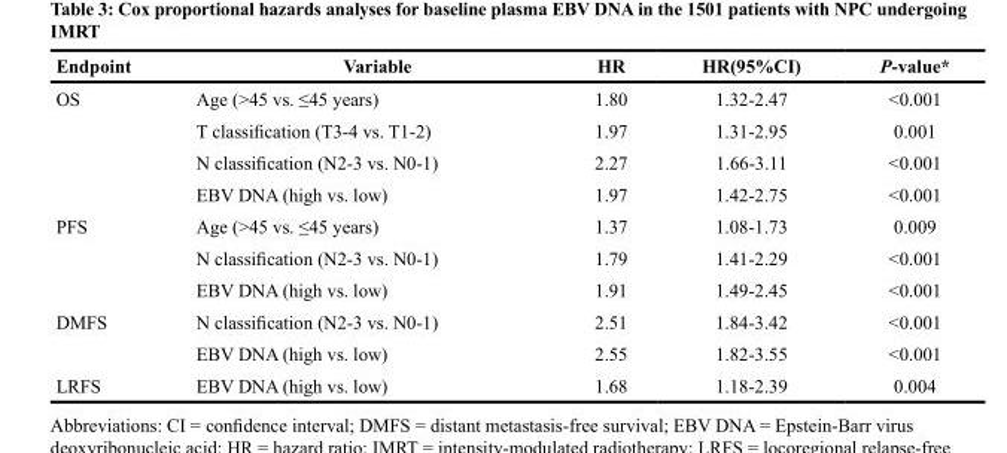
<table><thead><tr><td>Endpoint</td><td>Variable</td><td>HR</td><td>HR(95%CI)</td><td>P-value*</td></tr></thead><tbody><tr><td rowspan="4">OS</td><td>Age (&gt;45 vs. ≤45 years)</td><td>1.80</td><td>1.32-2.47</td><td>&lt;0.001</td></tr><tr><td>T classification (T3-4 vs. T1-2)</td><td>1.97</td><td>1.31-2.95</td><td>0.001</td></tr><tr><td>N classification (N2-3 vs. N0-1)</td><td>2.27</td><td>1.66-3.11</td><td>&lt;0.001</td></tr><tr><td>EBV DNA (high vs. low)</td><td>1.97</td><td>1.42-2.75</td><td>&lt;0.001</td></tr><tr><td rowspan="3">PFS</td><td>Age (&gt;45 vs. ≤45 years)</td><td>1.37</td><td>1.08-1.73</td><td>0.009</td></tr><tr><td>N classification (N2-3 vs. N0-1)</td><td>1.79</td><td>1.41-2.29</td><td>&lt;0.001</td></tr><tr><td>EBV DNA (high vs. low)</td><td>1.91</td><td>1.49-2.45</td><td>&lt;0.001</td></tr><tr><td rowspan="2">DMFS</td><td>N classification (N2-3 vs. N0-1)</td><td>2.51</td><td>1.84-3.42</td><td>&lt;0.001</td></tr><tr><td>EBV DNA (high vs. low)</td><td>2.55</td><td>1.82-3.55</td><td>&lt;0.001</td></tr><tr><td>LRFS</td><td>EBV DNA (high vs. low)</td><td>1.68</td><td>1.18-2.39</td><td>0.004</td></tr></tbody></table>